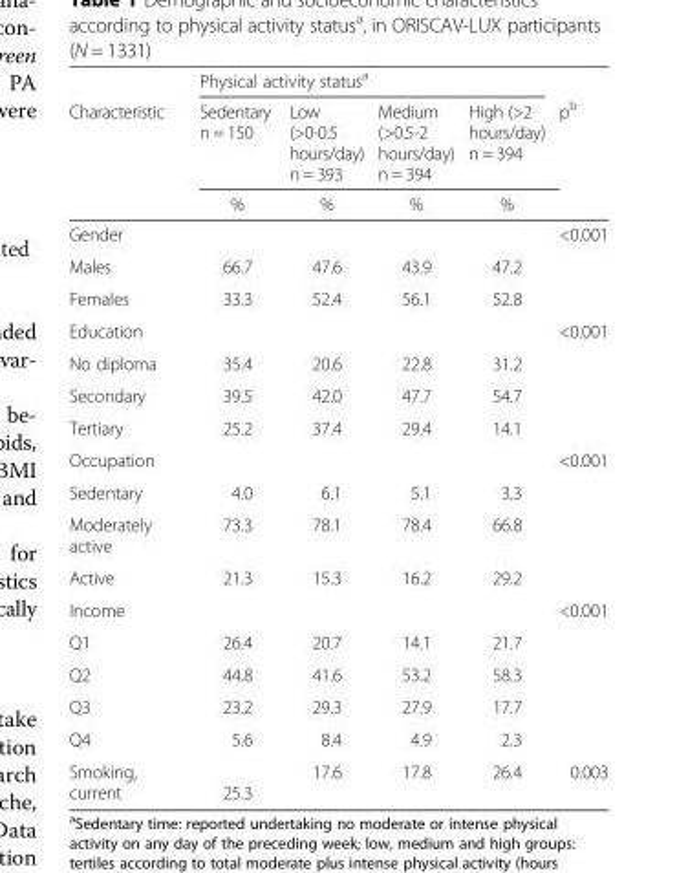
<table><thead><tr><td rowspan="3">Characteristic</td><td colspan="4">Physical activity status<sup>a</sup></td><td rowspan="3">p<sup>b</sup></td></tr><tr><td rowspan="2">Sedentary n = 150 %</td><td rowspan="2">Low (&gt;0-0.5 hours/day) n = 393 %</td><td rowspan="2">Medium (&gt;0.5-2 hours/day) n = 394 %</td><td rowspan="2">High (&gt;2 hours/day) n = 394 %</td></tr><tr></tr></thead><tbody><tr><td>Gender</td><td></td><td></td><td></td><td></td><td>&lt;0.001</td></tr><tr><td>Males</td><td>66.7</td><td>47.6</td><td>43.9</td><td>47.2</td><td></td></tr><tr><td>Females</td><td>33.3</td><td>52.4</td><td>56.1</td><td>52.8</td><td></td></tr><tr><td>Education</td><td></td><td></td><td></td><td></td><td>&lt;0.001</td></tr><tr><td>No diploma</td><td>35.4</td><td>20.6</td><td>22.8</td><td>31.2</td><td></td></tr><tr><td>Secondary</td><td>39.5</td><td>42.0</td><td>47.7</td><td>54.7</td><td></td></tr><tr><td>Tertiary</td><td>25.2</td><td>37.4</td><td>29.4</td><td>14.1</td><td></td></tr><tr><td>Occupation</td><td></td><td></td><td></td><td></td><td>&lt;0.001</td></tr><tr><td>Sedentary</td><td>4.0</td><td>6.1</td><td>5.1</td><td>3.3</td><td></td></tr><tr><td>Moderately active</td><td>73.3</td><td>78.1</td><td>78.4</td><td>66.8</td><td></td></tr><tr><td>Active</td><td>21.3</td><td>15.3</td><td>16.2</td><td>29.2</td><td></td></tr><tr><td>Income</td><td></td><td></td><td></td><td></td><td>&lt;0.001</td></tr><tr><td>Q1</td><td>26.4</td><td>20.7</td><td>14.1</td><td>21.7</td><td></td></tr><tr><td>Q2</td><td>44.8</td><td>41.6</td><td>53.2</td><td>58.3</td><td></td></tr><tr><td>Q3</td><td>23.2</td><td>29.3</td><td>27.9</td><td>17.7</td><td></td></tr><tr><td>Q4</td><td>5.6</td><td>8.4</td><td>4.9</td><td>2.3</td><td></td></tr><tr><td>Smoking, current</td><td>25.3</td><td>17.6</td><td>17.8</td><td>26.4</td><td>0.003</td></tr></tbody></table>